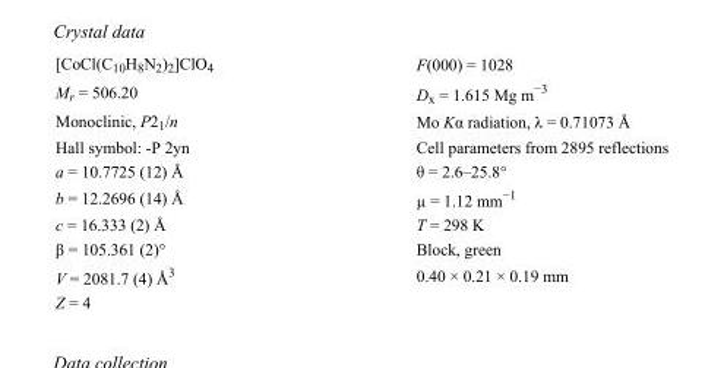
<table><tbody><tr><td>[CoCl(C<sub>10</sub>H<sub>8</sub>N<sub>2</sub>)<sub>2</sub>]ClO<sub>4</sub></td><td>F(000) = 1028</td></tr><tr><td>M<sub>r</sub> = 506.20</td><td>D<sub>x</sub> = 1.615 Mg m<sup>−3</sup></td></tr><tr><td>Monoclinic, P2<sub>1</sub>/n</td><td>Mo Kα radiation, λ = 0.71073 Å</td></tr><tr><td>Hall symbol: -P 2yn</td><td>Cell parameters from 2895 reflections</td></tr><tr><td>a = 10.7725 (12) Å</td><td>θ = 2.6–25.8°</td></tr><tr><td>b = 12.2696 (14) Å</td><td>µ = 1.12 mm<sup>−1</sup></td></tr><tr><td>c = 16.333 (2) Å</td><td>T = 298 K</td></tr><tr><td>β = 105.361 (2)°</td><td>Block, green</td></tr><tr><td>V = 2081.7 (4) Å<sup>3</sup></td><td>0.40 × 0.21 × 0.19 mm</td></tr><tr><td>Z = 4</td><td></td></tr></tbody></table>